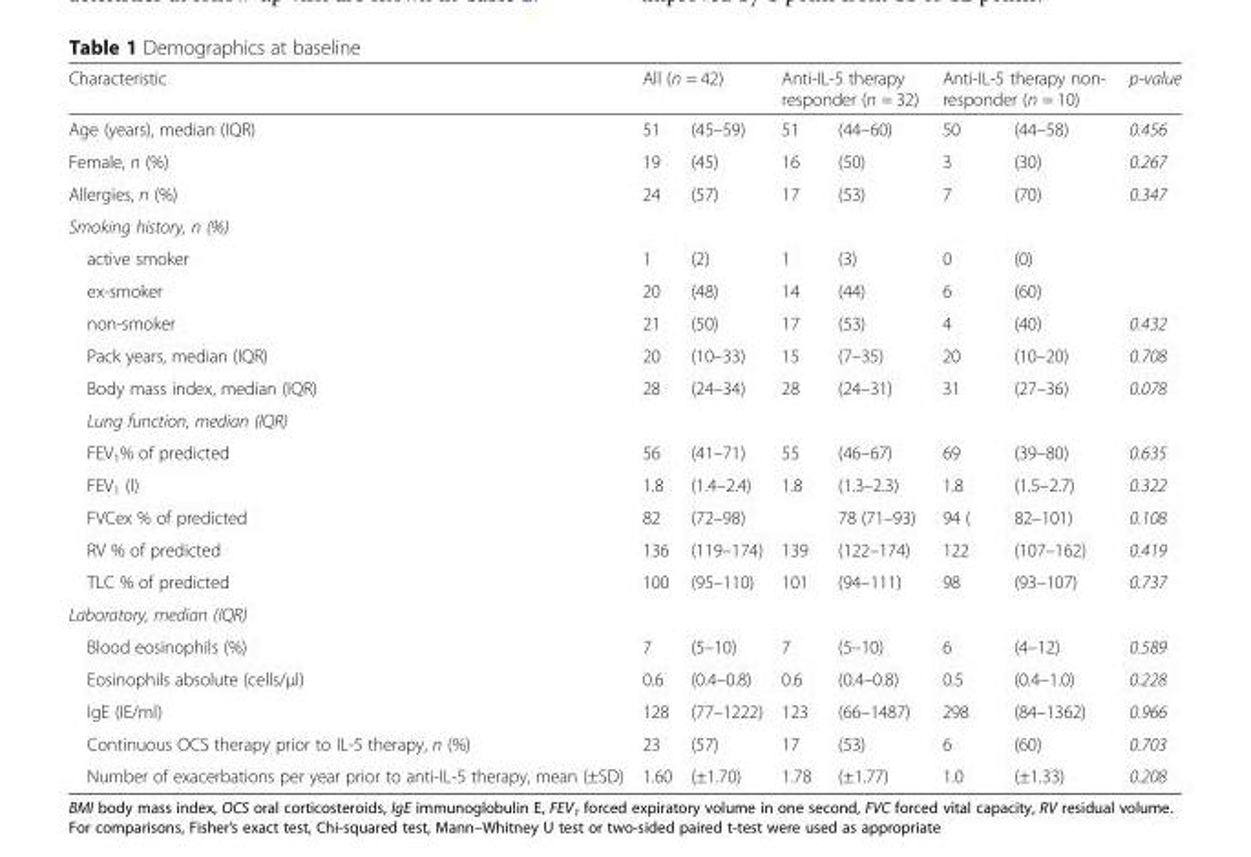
<table><thead><tr><td rowspan="2">Characteristic Age (years), median (IQR)</td><td colspan="2">All (n = 42)</td><td colspan="2">Anti-IL-5 therapy responder (n = 32)</td><td colspan="2">Anti-IL-5 therapy non- responder (n = 10)</td><td rowspan="2">p-value 0.456</td></tr><tr><td>51</td><td>(45–59)</td><td>51</td><td>(44–60)</td><td>50</td><td>(44–58)</td></tr></thead><tbody><tr><td>Female, n (%)</td><td>19</td><td>(45)</td><td>16</td><td>(50)</td><td>3</td><td>(30)</td><td>0.267</td></tr><tr><td>Allergies, n (%)</td><td>24</td><td>(57)</td><td>17</td><td>(53)</td><td>7</td><td>(70)</td><td>0.347</td></tr><tr><td colspan="8">Smoking history, n (%)</td></tr><tr><td>active smoker</td><td>1</td><td>(2)</td><td>1</td><td>(3)</td><td>0</td><td>(0)</td><td></td></tr><tr><td>ex-smoker</td><td>20</td><td>(48)</td><td>14</td><td>(44)</td><td>6</td><td>(60)</td><td></td></tr><tr><td>non-smoker</td><td>21</td><td>(50)</td><td>17</td><td>(53)</td><td>4</td><td>(40)</td><td>0.432</td></tr><tr><td>Pack years, median (IQR)</td><td>20</td><td>(10–33)</td><td>15</td><td>(7–35)</td><td>20</td><td>(10–20)</td><td>0.708</td></tr><tr><td>Body mass index, median (IQR)</td><td>28</td><td>(24–34)</td><td>28</td><td>(24–31)</td><td>31</td><td>(27–36)</td><td>0.078</td></tr><tr><td colspan="8">Lung function, median (IQR)</td></tr><tr><td>FEV<sub>1</sub>% of predicted</td><td>56</td><td>(41–71)</td><td>55</td><td>(46–67)</td><td>69</td><td>(39–80)</td><td>0.635</td></tr><tr><td>FEV<sub>1</sub> (l)</td><td>1.8</td><td>(1.4–2.4)</td><td>1.8</td><td>(1.3–2.3)</td><td>1.8</td><td>(1.5–2.7)</td><td>0.322</td></tr><tr><td>FVCex % of predicted</td><td>82</td><td>(72–98)</td><td></td><td>78 (71–93)</td><td>94 (</td><td>82–101)</td><td>0.108</td></tr><tr><td>RV % of predicted</td><td>136</td><td>(119–174)</td><td>139</td><td>(122–174)</td><td>122</td><td>(107–162)</td><td>0.419</td></tr><tr><td>TLC % of predicted</td><td>100</td><td>(95–110)</td><td>101</td><td>(94–111)</td><td>98</td><td>(93–107)</td><td>0.737</td></tr><tr><td colspan="8">Laboratory, median (IQR)</td></tr><tr><td>Blood eosinophils (%)</td><td>7</td><td>(5–10)</td><td>7</td><td>(5–10)</td><td>6</td><td>(4–12)</td><td>0.589</td></tr><tr><td>Eosinophils absolute (cells/μl)</td><td>0.6</td><td>(0.4–0.8)</td><td>0.6</td><td>(0.4–0.8)</td><td>0.5</td><td>(0.4–1.0)</td><td>0.228</td></tr><tr><td>IgE (IE/ml)</td><td>128</td><td>(77–1222)</td><td>123</td><td>(66–1487)</td><td>298</td><td>(84–1362)</td><td>0.966</td></tr><tr><td>Continuous OCS therapy prior to IL-5 therapy, n (%)</td><td>23</td><td>(57)</td><td>17</td><td>(53)</td><td>6</td><td>(60)</td><td>0.703</td></tr><tr><td>Number of exacerbations per year prior to anti-IL-5 therapy, mean (±SD)</td><td>1.60</td><td>(±1.70)</td><td>1.78</td><td>(±1.77)</td><td>1.0</td><td>(±1.33)</td><td>0.208</td></tr></tbody></table>